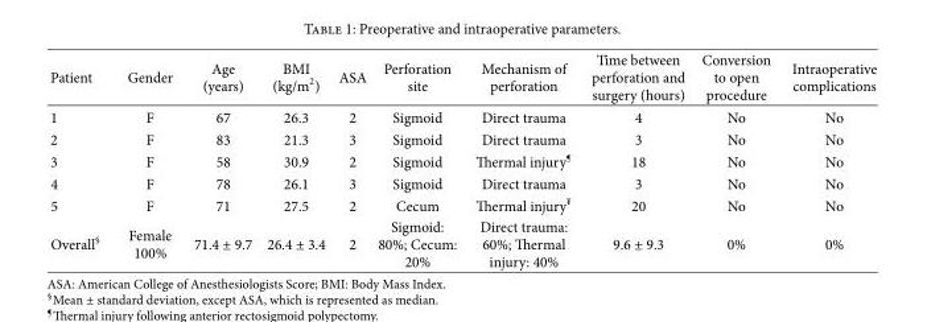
<table><thead><tr><td>Patient</td><td>Gender</td><td>Age (years)</td><td>BMI (kg/m<sup>2</sup>)</td><td>ASA</td><td>Perforation site</td><td>Mechanism of perforation</td><td>Time between perforation and surgery (hours)</td><td>Conversion to open procedure</td><td>Intraoperative complications</td></tr></thead><tbody><tr><td>1</td><td>F</td><td>67</td><td>26.3</td><td>2</td><td>Sigmoid</td><td>Direct trauma</td><td>4</td><td>No</td><td>No</td></tr><tr><td>2</td><td>F</td><td>83</td><td>21.3</td><td>3</td><td>Sigmoid</td><td>Direct trauma</td><td>3</td><td>No</td><td>No</td></tr><tr><td>3</td><td>F</td><td>58</td><td>30.9</td><td>2</td><td>Sigmoid</td><td>ermal injury¶</td><td>18</td><td>No</td><td>No</td></tr><tr><td>4</td><td>F</td><td>78</td><td>26.1</td><td>3</td><td>Sigmoid</td><td>Direct trauma</td><td>3</td><td>No</td><td>No</td></tr><tr><td>5</td><td>F</td><td>71</td><td>27.5</td><td>2</td><td>Cecum</td><td>ermal injury¥</td><td>20</td><td>No</td><td>No</td></tr><tr><td>Overall<sup>§</sup></td><td>Female 100%</td><td>71.4 ± 9.7</td><td>26.4 ± 3.4</td><td>2</td><td>Sigmoid: 80%; Cecum: 20%</td><td>Direct trauma: 60%; ermal injury: 40%</td><td>9.6 ± 9.3</td><td>0%</td><td>0%</td></tr></tbody></table>